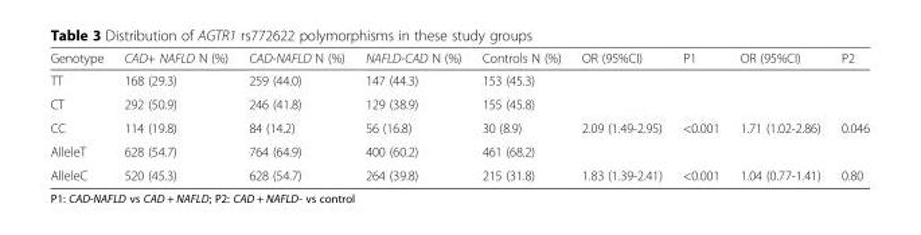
<table><thead><tr><td>Genotype</td><td>CAD+ NAFLD N (%)</td><td>CAD-NAFLD N (%)</td><td>NAFLD-CAD N (%)</td><td>Controls N (%)</td><td>OR (95%CI)</td><td>P1</td><td>OR (95%CI)</td><td>P2</td></tr></thead><tbody><tr><td>TT</td><td>168 (29.3)</td><td>259 (44.0)</td><td>147 (44.3)</td><td>153 (45.3)</td><td></td><td></td><td></td><td></td></tr><tr><td>CT</td><td>292 (50.9)</td><td>246 (41.8)</td><td>129 (38.9)</td><td>155 (45.8)</td><td></td><td></td><td></td><td></td></tr><tr><td>CC</td><td>114 (19.8)</td><td>84 (14.2)</td><td>56 (16.8)</td><td>30 (8.9)</td><td>2.09 (1.49-2.95)</td><td>&lt;0.001</td><td>1.71 (1.02-2.86)</td><td>0.046</td></tr><tr><td>AlleleT</td><td>628 (54.7)</td><td>764 (64.9)</td><td>400 (60.2)</td><td>461 (68.2)</td><td></td><td></td><td></td><td></td></tr><tr><td>AlleleC</td><td>520 (45.3)</td><td>628 (54.7)</td><td>264 (39.8)</td><td>215 (31.8)</td><td>1.83 (1.39-2.41)</td><td>&lt;0.001</td><td>1.04 (0.77-1.41)</td><td>0.80</td></tr></tbody></table>